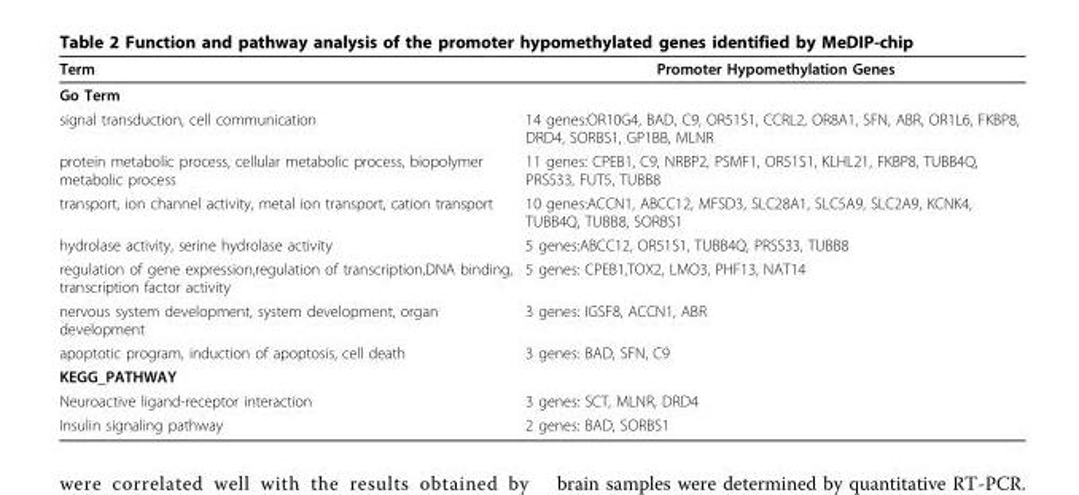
<table><thead><tr><td>Term</td><td>Promoter Hypomethylation Genes</td></tr></thead><tbody><tr><td colspan="2">Go Term</td></tr><tr><td>signal transduction, cell communication</td><td>14 genes:OR10G4, BAD, C9, OR51S1, CCRL2, OR8A1, SFN, ABR, OR1L6, FKBP8, DRD4, SORBS1, GP1BB, MLNR</td></tr><tr><td>protein metabolic process, cellular metabolic process, biopolymer metabolic process</td><td>11 genes: CPEB1, C9, NRBP2, PSMF1, OR51S1, KLHL21, FKBP8, TUBB4Q, PRSS33, FUT5, TUBB8</td></tr><tr><td>transport, ion channel activity, metal ion transport, cation transport</td><td>10 genes:ACCN1, ABCC12, MFSD3, SLC28A1, SLC5A9, SLC2A9, KCNK4, TUBB4Q, TUBB8, SORBS1</td></tr><tr><td>hydrolase activity, serine hydrolase activity</td><td>5 genes:ABCC12, OR51S1, TUBB4Q, PRSS33, TUBB8</td></tr><tr><td>regulation of gene expression,regulation of transcription,DNA binding, transcription factor activity</td><td>5 genes: CPEB1,TOX2, LMO3, PHF13, NAT14</td></tr><tr><td>nervous system development, system development, organ development</td><td>3 genes: IGSF8, ACCN1, ABR</td></tr><tr><td>apoptotic program, induction of apoptosis, cell death</td><td>3 genes: BAD, SFN, C9</td></tr><tr><td colspan="2">KEGG_PATHWAY</td></tr><tr><td>Neuroactive ligand-receptor interaction</td><td>3 genes: SCT, MLNR, DRD4</td></tr><tr><td>Insulin signaling pathway</td><td>2 genes: BAD, SORBS1</td></tr></tbody></table>